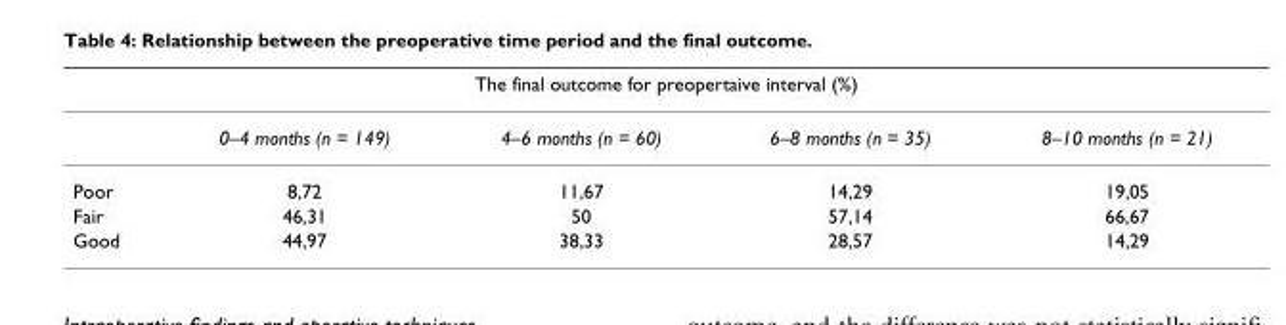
<table><thead><tr><td colspan="5">The final outcome for preopertaive interval (%)</td></tr><tr><td></td><td>0–4 months (n = 149)</td><td>4–6 months (n = 60)</td><td>6–8 months (n = 35)</td><td>8–10 months (n = 21)</td></tr></thead><tbody><tr><td>Poor</td><td>8,72</td><td>11,67</td><td>14,29</td><td>19,05</td></tr><tr><td>Fair</td><td>46,31</td><td>50</td><td>57,14</td><td>66,67</td></tr><tr><td>Good</td><td>44,97</td><td>38,33</td><td>28,57</td><td>14,29</td></tr></tbody></table>